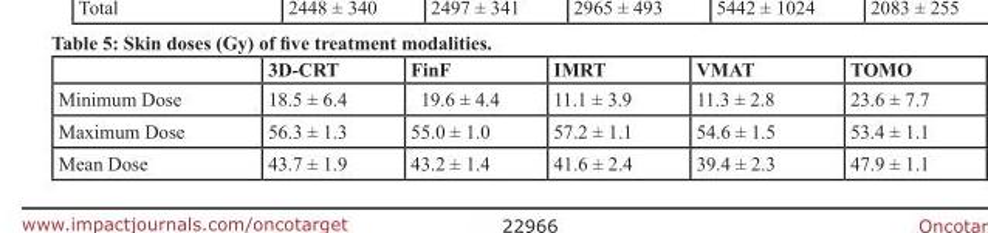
<table><thead><tr><td></td><td>3D-CRT</td><td>FinF</td><td>IMRT</td><td>VMAT</td><td>TOMO</td></tr></thead><tbody><tr><td>Minimum Dose</td><td>18.5 ± 6.4</td><td>19.6 ± 4.4</td><td>11.1 ± 3.9</td><td>11.3 ± 2.8</td><td>23.6 ± 7.7</td></tr><tr><td>Maximum Dose</td><td>56.3 ± 1.3</td><td>55.0 ± 1.0</td><td>57.2 ± 1.1</td><td>54.6 ± 1.5</td><td>53.4 ± 1.1</td></tr><tr><td>Mean Dose</td><td>43.7 ± 1.9</td><td>43.2 ± 1.4</td><td>41.6 ± 2.4</td><td>39.4 ± 2.3</td><td>47.9 ± 1.1</td></tr></tbody></table>